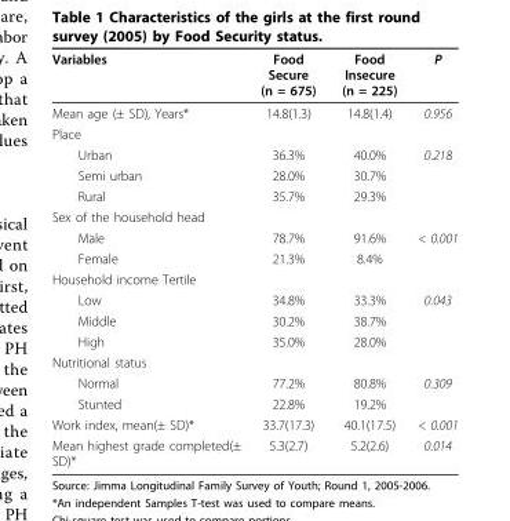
<table><thead><tr><td>Variables</td><td>Food Secure (n = 675)</td><td>Food Insecure (n = 225)</td><td>P</td></tr></thead><tbody><tr><td>Mean age (± SD), Years*</td><td>14.8(1.3)</td><td>14.8(1.4)</td><td>0.956</td></tr><tr><td colspan="4">Place</td></tr><tr><td>Urban</td><td>36.3%</td><td>40.0%</td><td>0.218</td></tr><tr><td>Semi urban</td><td>28.0%</td><td>30.7%</td><td></td></tr><tr><td>Rural</td><td>35.7%</td><td>29.3%</td><td></td></tr><tr><td colspan="4">Sex of the household head</td></tr><tr><td>Male</td><td>78.7%</td><td>91.6%</td><td>&lt; 0.001</td></tr><tr><td>Female</td><td>21.3%</td><td>8.4%</td><td></td></tr><tr><td colspan="4">Household income Tertile</td></tr><tr><td>Low</td><td>34.8%</td><td>33.3%</td><td>0.043</td></tr><tr><td>Middle</td><td>30.2%</td><td>38.7%</td><td></td></tr><tr><td>High</td><td>35.0%</td><td>28.0%</td><td></td></tr><tr><td colspan="4">Nutritional status</td></tr><tr><td>Normal</td><td>77.2%</td><td>80.8%</td><td>0.309</td></tr><tr><td>Stunted</td><td>22.8%</td><td>19.2%</td><td></td></tr><tr><td>Work index, mean(± SD)*</td><td>33.7(17.3)</td><td>40.1(17.5)</td><td>&lt; 0.001</td></tr><tr><td>Mean highest grade completed(± SD)*</td><td>5.3(2.7)</td><td>5.2(2.6)</td><td>0.014</td></tr></tbody></table>